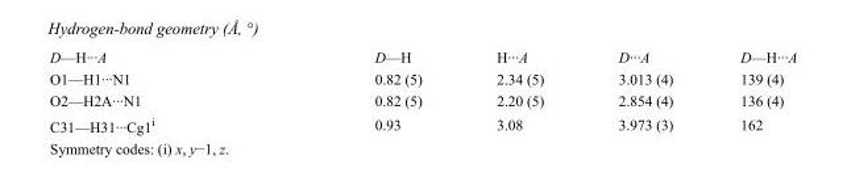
<table><tbody><tr><td>D—H···A</td><td>D—H</td><td>H···A</td><td>D···A</td><td>D—H···A</td></tr><tr><td>O1—H1···N1</td><td>0.82 (5)</td><td>2.34 (5)</td><td>3.013 (4)</td><td>139 (4)</td></tr><tr><td>O2—H2A···N1</td><td>0.82 (5)</td><td>2.20 (5)</td><td>2.854 (4)</td><td>136 (4)</td></tr><tr><td>C31—H31···Cg1<sup>i</sup></td><td>0.93</td><td>3.08</td><td>3.973 (3)</td><td>162</td></tr></tbody></table>